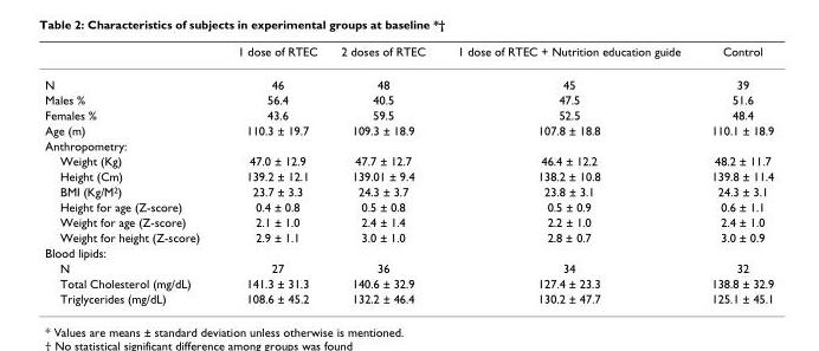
<table><thead><tr><td></td><td>1 dose of RTEC</td><td>2 doses of RTEC</td><td>1 dose of RTEC + Nutrition education guide</td><td>Control</td></tr></thead><tbody><tr><td>N</td><td>46</td><td>48</td><td>45</td><td>39</td></tr><tr><td>Males %</td><td>56.4</td><td>40.5</td><td>47.5</td><td>51.6</td></tr><tr><td>Females %</td><td>43.6</td><td>59.5</td><td>52.5</td><td>48.4</td></tr><tr><td>Age (m)</td><td>110.3 ± 19.7</td><td>109.3 ± 18.9</td><td>107.8 ± 18.8</td><td>110.1 ± 18.9</td></tr><tr><td colspan="5">Anthropometry:</td></tr><tr><td>Weight (Kg)</td><td>47.0 ± 12.9</td><td>47.7 ± 12.7</td><td>46.4 ± 12.2</td><td>48.2 ± 11.7</td></tr><tr><td>Height (Cm)</td><td>139.2 ± 12.1</td><td>139.01 ± 9.4</td><td>138.2 ± 10.8</td><td>139.8 ± 11.4</td></tr><tr><td>BMI (Kg/M<sup>2</sup>)</td><td>23.7 ± 3.3</td><td>24.3 ± 3.7</td><td>23.8 ± 3.1</td><td>24.3 ± 3.1</td></tr><tr><td>Height for age (Z-score)</td><td>0.4 ± 0.8</td><td>0.5 ± 0.8</td><td>0.5 ± 0.9</td><td>0.6 ± 1.1</td></tr><tr><td>Weight for age (Z-score)</td><td>2.1 ± 1.0</td><td>2.4 ± 1.4</td><td>2.2 ± 1.0</td><td>2.4 ± 1.0</td></tr><tr><td>Weight for height (Z-score)</td><td>2.9 ± 1.1</td><td>3.0 ± 1.0</td><td>2.8 ± 0.7</td><td>3.0 ± 0.9</td></tr><tr><td colspan="5">Blood lipids:</td></tr><tr><td>N</td><td>27</td><td>36</td><td>34</td><td>32</td></tr><tr><td>Total Cholesterol (mg/dL)</td><td>141.3 ± 31.3</td><td>140.6 ± 32.9</td><td>127.4 ± 23.3</td><td>138.8 ± 32.9</td></tr><tr><td>Triglycerides (mg/dL)</td><td>108.6 ± 45.2</td><td>132.2 ± 46.4</td><td>130.2 ± 47.7</td><td>125.1 ± 45.1</td></tr></tbody></table>